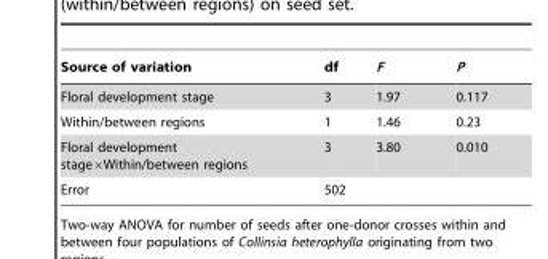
<table><thead><tr><td>Source of variation</td><td>df</td><td>F</td><td>P</td></tr></thead><tbody><tr><td>Floral development stage</td><td>3</td><td>1.97</td><td>0.117</td></tr><tr><td>Within/between regions</td><td>1</td><td>1.46</td><td>0.23</td></tr><tr><td>Floral development stage×Within/between regions</td><td>3</td><td>3.80</td><td>0.010</td></tr><tr><td>Error</td><td>502</td><td></td><td></td></tr></tbody></table>